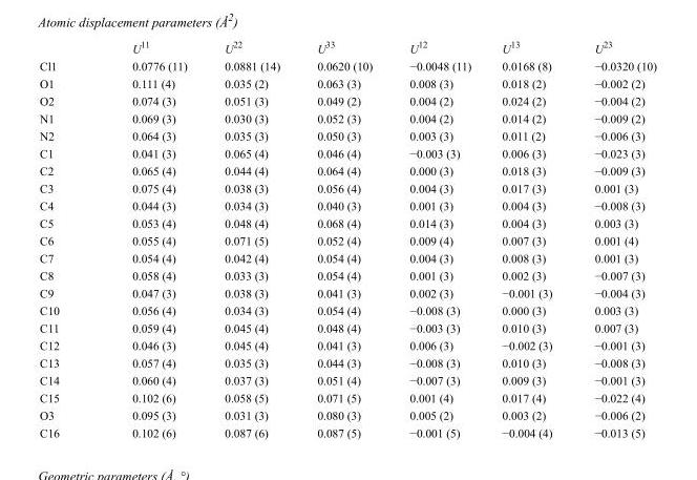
<table><thead><tr><td></td><td>U<sup>11</sup></td><td>U<sup>22</sup></td><td>U<sup>33</sup></td><td>U<sup>12</sup></td><td>U<sup>13</sup></td><td>U<sup>23</sup></td></tr></thead><tbody><tr><td>Cl1</td><td>0.0776 (11)</td><td>0.0881 (14)</td><td>0.0620 (10)</td><td>−0.0048 (11)</td><td>0.0168 (8)</td><td>−0.0320 (10)</td></tr><tr><td>O1</td><td>0.111 (4)</td><td>0.035 (2)</td><td>0.063 (3)</td><td>0.008 (3)</td><td>0.018 (2)</td><td>−0.002 (2)</td></tr><tr><td>O2</td><td>0.074 (3)</td><td>0.051 (3)</td><td>0.049 (2)</td><td>0.004 (2)</td><td>0.024 (2)</td><td>−0.004 (2)</td></tr><tr><td>N1</td><td>0.069 (3)</td><td>0.030 (3)</td><td>0.052 (3)</td><td>0.004 (2)</td><td>0.014 (2)</td><td>−0.009 (2)</td></tr><tr><td>N2</td><td>0.064 (3)</td><td>0.035 (3)</td><td>0.050 (3)</td><td>0.003 (3)</td><td>0.011 (2)</td><td>−0.006 (3)</td></tr><tr><td>C1</td><td>0.041 (3)</td><td>0.065 (4)</td><td>0.046 (4)</td><td>−0.003 (3)</td><td>0.006 (3)</td><td>−0.023 (3)</td></tr><tr><td>C2</td><td>0.065 (4)</td><td>0.044 (4)</td><td>0.064 (4)</td><td>0.000 (3)</td><td>0.018 (3)</td><td>−0.009 (3)</td></tr><tr><td>C3</td><td>0.075 (4)</td><td>0.038 (3)</td><td>0.056 (4)</td><td>0.004 (3)</td><td>0.017 (3)</td><td>0.001 (3)</td></tr><tr><td>C4</td><td>0.044 (3)</td><td>0.034 (3)</td><td>0.040 (3)</td><td>0.001 (3)</td><td>0.004 (3)</td><td>−0.008 (3)</td></tr><tr><td>C5</td><td>0.053 (4)</td><td>0.048 (4)</td><td>0.068 (4)</td><td>0.014 (3)</td><td>0.004 (3)</td><td>0.003 (3)</td></tr><tr><td>C6</td><td>0.055 (4)</td><td>0.071 (5)</td><td>0.052 (4)</td><td>0.009 (4)</td><td>0.007 (3)</td><td>0.001 (4)</td></tr><tr><td>C7</td><td>0.054 (4)</td><td>0.042 (4)</td><td>0.054 (4)</td><td>0.004 (3)</td><td>0.008 (3)</td><td>0.001 (3)</td></tr><tr><td>C8</td><td>0.058 (4)</td><td>0.033 (3)</td><td>0.054 (4)</td><td>0.001 (3)</td><td>0.002 (3)</td><td>−0.007 (3)</td></tr><tr><td>C9</td><td>0.047 (3)</td><td>0.038 (3)</td><td>0.041 (3)</td><td>0.002 (3)</td><td>−0.001 (3)</td><td>−0.004 (3)</td></tr><tr><td>C10</td><td>0.056 (4)</td><td>0.034 (3)</td><td>0.054 (4)</td><td>−0.008 (3)</td><td>0.000 (3)</td><td>0.003 (3)</td></tr><tr><td>C11</td><td>0.059 (4)</td><td>0.045 (4)</td><td>0.048 (4)</td><td>−0.003 (3)</td><td>0.010 (3)</td><td>0.007 (3)</td></tr><tr><td>C12</td><td>0.046 (3)</td><td>0.045 (4)</td><td>0.041 (3)</td><td>0.006 (3)</td><td>−0.002 (3)</td><td>−0.001 (3)</td></tr><tr><td>C13</td><td>0.057 (4)</td><td>0.035 (3)</td><td>0.044 (3)</td><td>−0.008 (3)</td><td>0.010 (3)</td><td>−0.008 (3)</td></tr><tr><td>C14</td><td>0.060 (4)</td><td>0.037 (3)</td><td>0.051 (4)</td><td>−0.007 (3)</td><td>0.009 (3)</td><td>−0.001 (3)</td></tr><tr><td>C15</td><td>0.102 (6)</td><td>0.058 (5)</td><td>0.071 (5)</td><td>0.001 (4)</td><td>0.017 (4)</td><td>−0.022 (4)</td></tr><tr><td>O3</td><td>0.095 (3)</td><td>0.031 (3)</td><td>0.080 (3)</td><td>0.005 (2)</td><td>0.003 (2)</td><td>−0.006 (2)</td></tr><tr><td>C16</td><td>0.102 (6)</td><td>0.087 (6)</td><td>0.087 (5)</td><td>−0.001 (5)</td><td>−0.004 (4)</td><td>−0.013 (5)</td></tr></tbody></table>